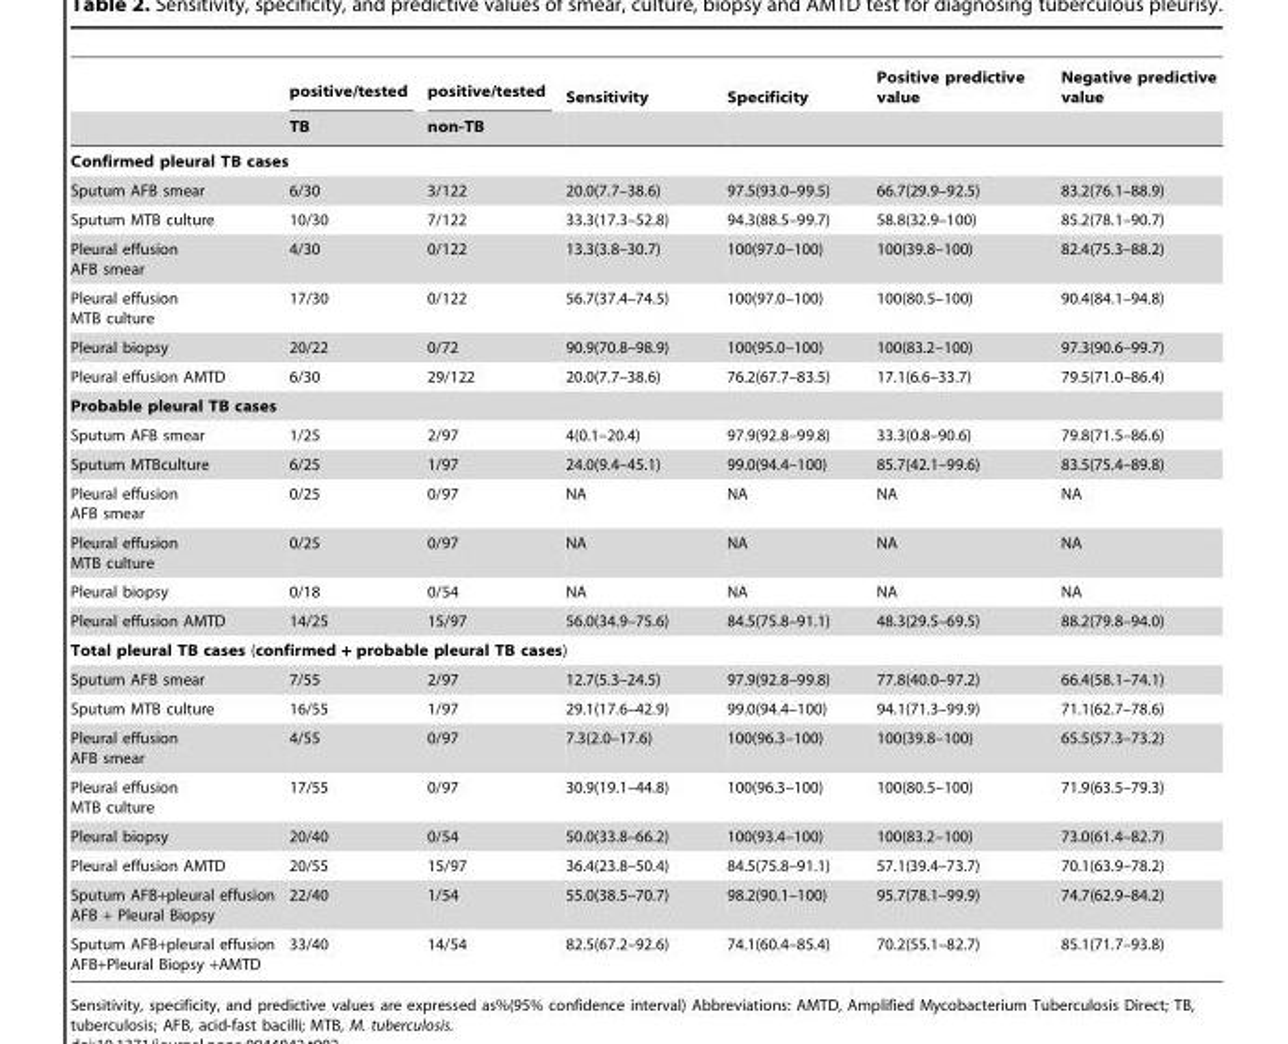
<table><thead><tr><td rowspan="2"></td><td rowspan="2">positive/tested TB</td><td rowspan="2">positive/tested non-TB</td><td rowspan="2">Sensitivity</td><td rowspan="2">Specificity</td><td rowspan="2">Positive predictive value</td><td rowspan="2">Negative predictive value</td></tr><tr></tr></thead><tbody><tr><td colspan="7">Confirmed pleural TB cases</td></tr><tr><td>Sputum AFB smear</td><td>6/30</td><td>3/122</td><td>20.0(7.7–38.6)</td><td>97.5(93.0–99.5)</td><td>66.7(29.9–92.5)</td><td>83.2(76.1–88.9)</td></tr><tr><td>Sputum MTB culture</td><td>10/30</td><td>7/122</td><td>33.3(17.3–52.8)</td><td>94.3(88.5–99.7)</td><td>58.8(32.9–100)</td><td>85.2(78.1–90.7)</td></tr><tr><td>Pleural effusion AFB smear</td><td>4/30</td><td>0/122</td><td>13.3(3.8–30.7)</td><td>100(97.0–100)</td><td>100(39.8–100)</td><td>82.4(75.3–88.2)</td></tr><tr><td>Pleural effusion MTB culture</td><td>17/30</td><td>0/122</td><td>56.7(37.4–74.5)</td><td>100(97.0–100)</td><td>100(80.5–100)</td><td>90.4(84.1–94.8)</td></tr><tr><td>Pleural biopsy</td><td>20/22</td><td>0/72</td><td>90.9(70.8–98.9)</td><td>100(95.0–100)</td><td>100(83.2–100)</td><td>97.3(90.6–99.7)</td></tr><tr><td>Pleural effusion AMTD</td><td>6/30</td><td>29/122</td><td>20.0(7.7–38.6)</td><td>76.2(67.7–83.5)</td><td>17.1(6.6–33.7)</td><td>79.5(71.0–86.4)</td></tr><tr><td colspan="7">Probable pleural TB cases</td></tr><tr><td>Sputum AFB smear</td><td>1/25</td><td>2/97</td><td>4(0.1–20.4)</td><td>97.9(92.8–99.8)</td><td>33.3(0.8–90.6)</td><td>79.8(71.5–86.6)</td></tr><tr><td>Sputum MTBculture</td><td>6/25</td><td>1/97</td><td>24.0(9.4–45.1)</td><td>99.0(94.4–100)</td><td>85.7(42.1–99.6)</td><td>83.5(75.4–89.8)</td></tr><tr><td>Pleural effusion AFB smear</td><td>0/25</td><td>0/97</td><td>NA</td><td>NA</td><td>NA</td><td>NA</td></tr><tr><td>Pleural effusion MTB culture</td><td>0/25</td><td>0/97</td><td>NA</td><td>NA</td><td>NA</td><td>NA</td></tr><tr><td>Pleural biopsy</td><td>0/18</td><td>0/54</td><td>NA</td><td>NA</td><td>NA</td><td>NA</td></tr><tr><td>Pleural effusion AMTD</td><td>14/25</td><td>15/97</td><td>56.0(34.9–75.6)</td><td>84.5(75.8–91.1)</td><td>48.3(29.5–69.5)</td><td>88.2(79.8–94.0)</td></tr><tr><td colspan="7">Total pleural TB cases (confirmed + probable pleural TB cases)</td></tr><tr><td>Sputum AFB smear</td><td>7/55</td><td>2/97</td><td>12.7(5.3–24.5)</td><td>97.9(92.8–99.8)</td><td>77.8(40.0–97.2)</td><td>66.4(58.1–74.1)</td></tr><tr><td>Sputum MTB culture</td><td>16/55</td><td>1/97</td><td>29.1(17.6–42.9)</td><td>99.0(94.4–100)</td><td>94.1(71.3–99.9)</td><td>71.1(62.7–78.6)</td></tr><tr><td>Pleural effusion AFB smear</td><td>4/55</td><td>0/97</td><td>7.3(2.0–17.6)</td><td>100(96.3–100)</td><td>100(39.8–100)</td><td>65.5(57.3–73.2)</td></tr><tr><td>Pleural effusion MTB culture</td><td>17/55</td><td>0/97</td><td>30.9(19.1–44.8)</td><td>100(96.3–100)</td><td>100(80.5–100)</td><td>71.9(63.5–79.3)</td></tr><tr><td>Pleural biopsy</td><td>20/40</td><td>0/54</td><td>50.0(33.8–66.2)</td><td>100(93.4–100)</td><td>100(83.2–100)</td><td>73.0(61.4–82.7)</td></tr><tr><td>Pleural effusion AMTD</td><td>20/55</td><td>15/97</td><td>36.4(23.8–50.4)</td><td>84.5(75.8–91.1)</td><td>57.1(39.4–73.7)</td><td>70.1(63.9–78.2)</td></tr><tr><td>Sputum AFB+pleural effusion AFB + Pleural Biopsy</td><td>22/40</td><td>1/54</td><td>55.0(38.5–70.7)</td><td>98.2(90.1–100)</td><td>95.7(78.1–99.9)</td><td>74.7(62.9–84.2)</td></tr><tr><td>Sputum AFB+pleural effusion AFB+Pleural Biopsy +AMTD</td><td>33/40</td><td>14/54</td><td>82.5(67.2–92.6)</td><td>74.1(60.4–85.4)</td><td>70.2(55.1–82.7)</td><td>85.1(71.7–93.8)</td></tr></tbody></table>